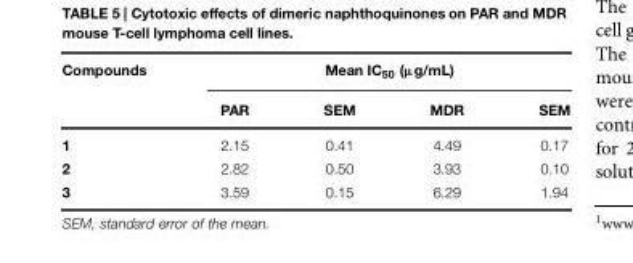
<table><thead><tr><td rowspan="2">Compounds</td><td colspan="4">Mean IC<sub>50</sub> (μg/mL)</td></tr><tr><td>PAR</td><td>SEM</td><td>MDR</td><td>SEM</td></tr></thead><tbody><tr><td>1</td><td>2.15</td><td>0.41</td><td>4.49</td><td>0.17</td></tr><tr><td>2</td><td>2.82</td><td>0.50</td><td>3.93</td><td>0.10</td></tr><tr><td>3</td><td>3.59</td><td>0.15</td><td>6.29</td><td>1.94</td></tr></tbody></table>